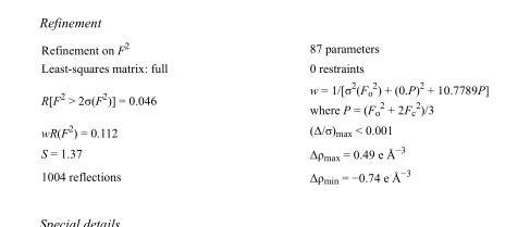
<table><tbody><tr><td>Refinement on F<sup>2</sup></td><td>87 parameters</td></tr><tr><td>Least-squares matrix: full</td><td>0 restraints</td></tr><tr><td>R[F<sup>2</sup> &gt; 2σ(F<sup>2</sup>)] = 0.046</td><td>w = 1/[σ<sup>2</sup>(F<sub>o</sub> <sup>2</sup>) + (0.P)<sup>2</sup> + 10.7789P] where P = (F<sub>o</sub> <sup>2</sup> + 2F<sub>c</sub> <sup>2</sup>)/3</td></tr><tr><td>wR(F<sup>2</sup>) = 0.112</td><td>(Δ/σ)<sub>max</sub> &lt; 0.001</td></tr><tr><td>S = 1.37</td><td>Δρ<sub>max</sub> = 0.49 e Å<sup>−3</sup></td></tr><tr><td>1004 reflections</td><td>Δρ<sub>min</sub> = −0.74 e Å<sup>−3</sup></td></tr></tbody></table>